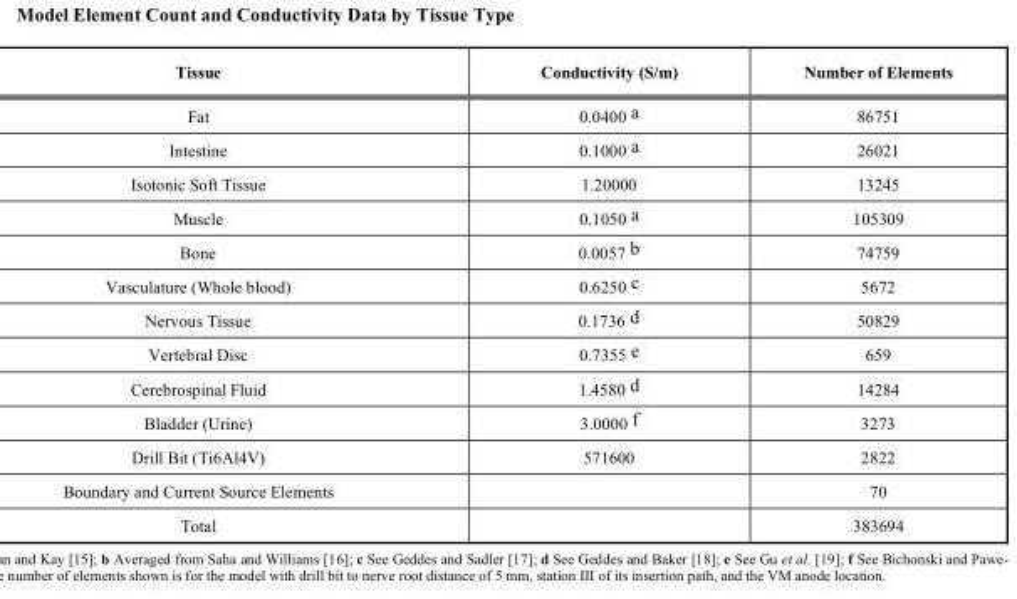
<table><thead><tr><td>Tissue</td><td>Conductivity (S/m)</td><td>Number of Elements</td></tr></thead><tbody><tr><td>Fat</td><td>0.0400 <sup>a</sup></td><td>86751</td></tr><tr><td>Intestine</td><td>0.1000 <sup>a</sup></td><td>26021</td></tr><tr><td>Isotonic Soft Tissue</td><td>1.20000</td><td>13245</td></tr><tr><td>Muscle</td><td>0.1050 <sup>a</sup></td><td>105309</td></tr><tr><td>Bone</td><td>0.0057 <sup>b</sup></td><td>74759</td></tr><tr><td>Vasculature (Whole blood)</td><td>0.6250 <sup>c</sup></td><td>5672</td></tr><tr><td>Nervous Tissue</td><td>0.1736 <sup>d</sup></td><td>50829</td></tr><tr><td>Vertebral Disc</td><td>0.7355 <sup>e</sup></td><td>659</td></tr><tr><td>Cerebrospinal Fluid</td><td>1.4580 <sup>d</sup></td><td>14284</td></tr><tr><td>Bladder (Urine)</td><td>3.0000 <sup>f</sup></td><td>3273</td></tr><tr><td>Drill Bit (Ti6Al4V)</td><td>571600</td><td>2822</td></tr><tr><td>Boundary and Current Source Elements</td><td></td><td>70</td></tr><tr><td>Total</td><td></td><td>383694</td></tr></tbody></table>